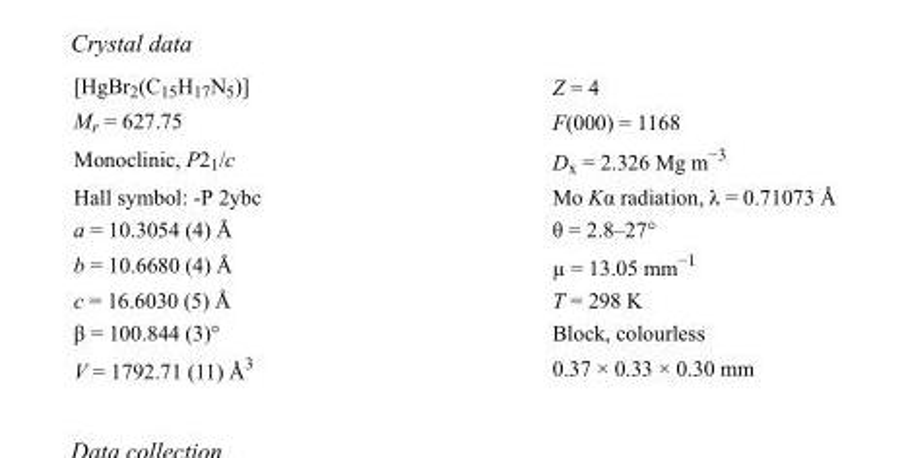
<table><tbody><tr><td>[HgBr<sub>2</sub>(C<sub>15</sub>H<sub>17</sub>N<sub>5</sub>)]</td><td>Z = 4</td></tr><tr><td>M<sub>r</sub> = 627.75</td><td>F(000) = 1168</td></tr><tr><td>Monoclinic, P2<sub>1</sub>/c</td><td>D<sub>x</sub> = 2.326 Mg m<sup>−3</sup></td></tr><tr><td>Hall symbol: -P 2ybc</td><td>Mo Kα radiation, λ = 0.71073 Å</td></tr><tr><td>a = 10.3054 (4) Å</td><td>θ = 2.8–27°</td></tr><tr><td>b = 10.6680 (4) Å</td><td>µ = 13.05 mm<sup>−1</sup></td></tr><tr><td>c = 16.6030 (5) Å</td><td>T = 298 K</td></tr><tr><td>β = 100.844 (3)°</td><td>Block, colourless</td></tr><tr><td>V = 1792.71 (11) Å<sup>3</sup></td><td>0.37 × 0.33 × 0.30 mm</td></tr></tbody></table>